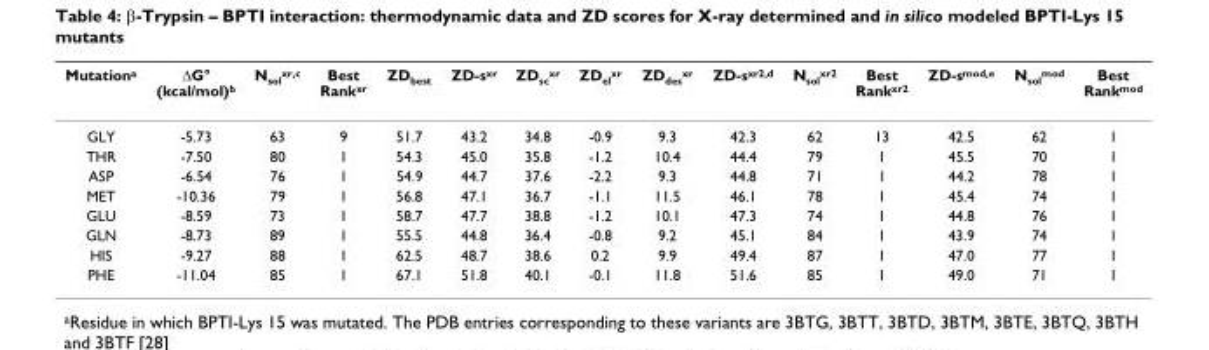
<table><thead><tr><td>Mutation<sup>a</sup></td><td>∆G° (kcal/mol)b</td><td>N<sub>sol</sub><sup>xr,c</sup></td><td>Best Rank<sup>xr</sup></td><td>ZD<sub>best</sub></td><td>ZD-s<sup>xr</sup></td><td>ZD<sub>sc</sub><sup>xr</sup></td><td>ZD<sub>el</sub><sup>xr</sup></td><td>ZD<sub>des</sub><sup>xr</sup></td><td>ZD-s<sup>xr2,d</sup></td><td>N<sub>sol</sub><sup>xr2</sup></td><td>Best Rank<sup>xr2</sup></td><td>ZD-s<sup>mod,e</sup></td><td>N<sub>sol</sub><sup>mod</sup></td><td>Best Rank<sup>mod</sup></td></tr></thead><tbody><tr><td>GLY</td><td>-5.73</td><td>63</td><td>9</td><td>51.7</td><td>43.2</td><td>34.8</td><td>-0.9</td><td>9.3</td><td>42.3</td><td>62</td><td>13</td><td>42.5</td><td>62</td><td>1</td></tr><tr><td>THR</td><td>-7.50</td><td>80</td><td>1</td><td>54.3</td><td>45.0</td><td>35.8</td><td>-1.2</td><td>10.4</td><td>44.4</td><td>79</td><td>1</td><td>45.5</td><td>70</td><td>1</td></tr><tr><td>ASP</td><td>-6.54</td><td>76</td><td>1</td><td>54.9</td><td>44.7</td><td>37.6</td><td>-2.2</td><td>9.3</td><td>44.8</td><td>71</td><td>1</td><td>44.2</td><td>78</td><td>1</td></tr><tr><td>MET</td><td>-10.36</td><td>79</td><td>1</td><td>56.8</td><td>47.1</td><td>36.7</td><td>-1.1</td><td>11.5</td><td>46.1</td><td>78</td><td>1</td><td>45.4</td><td>74</td><td>1</td></tr><tr><td>GLU</td><td>-8.59</td><td>73</td><td>1</td><td>58.7</td><td>47.7</td><td>38.8</td><td>-1.2</td><td>10.1</td><td>47.3</td><td>74</td><td>1</td><td>44.8</td><td>76</td><td>1</td></tr><tr><td>GLN</td><td>-8.73</td><td>89</td><td>1</td><td>55.5</td><td>44.8</td><td>36.4</td><td>-0.8</td><td>9.2</td><td>45.1</td><td>84</td><td>1</td><td>43.9</td><td>74</td><td>1</td></tr><tr><td>HIS</td><td>-9.27</td><td>88</td><td>1</td><td>62.5</td><td>48.7</td><td>38.6</td><td>0.2</td><td>9.9</td><td>49.4</td><td>87</td><td>1</td><td>47.0</td><td>77</td><td>1</td></tr><tr><td>PHE</td><td>-11.04</td><td>85</td><td>1</td><td>67.1</td><td>51.8</td><td>40.1</td><td>-0.1</td><td>11.8</td><td>51.6</td><td>85</td><td>1</td><td>49.0</td><td>71</td><td>1</td></tr></tbody></table>